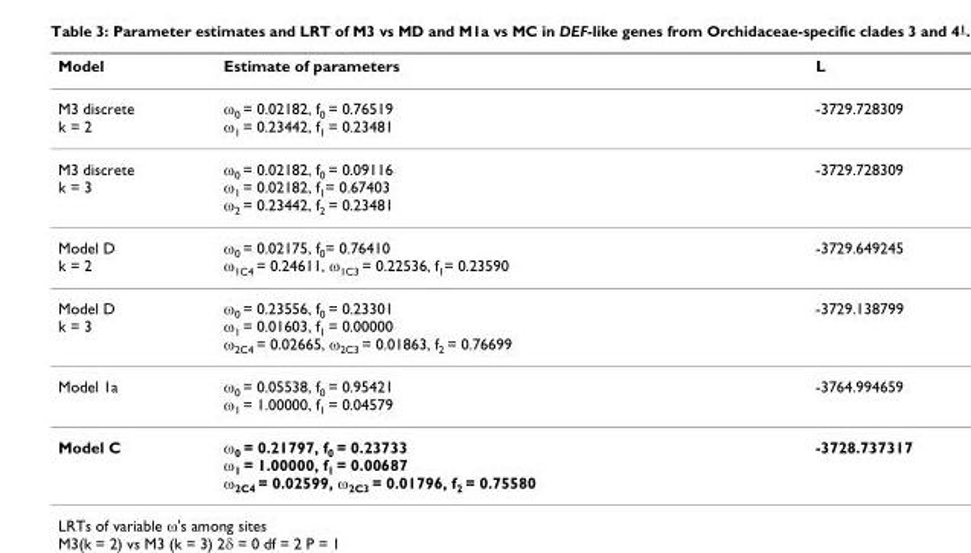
<table><thead><tr><td>Model</td><td>Estimate of parameters</td><td>L</td></tr></thead><tbody><tr><td>M3 discrete k = 2</td><td>ω<sub>0</sub> = 0.02182, f<sub>0</sub> = 0.76519 ω<sub>1</sub> = 0.23442, f<sub>1</sub> = 0.23481</td><td>-3729.728309</td></tr><tr><td>M3 discrete k = 3</td><td>ω<sub>0</sub> = 0.02182, f<sub>0</sub> = 0.09116 ω<sub>1</sub> = 0.02182, f<sub>1</sub>= 0.67403 ω<sub>2</sub> = 0.23442, f<sub>2</sub> = 0.23481</td><td>-3729.728309</td></tr><tr><td>Model D k = 2</td><td>ω<sub>0</sub> = 0.02175, f<sub>0</sub>= 0.76410 ω<sub>1C4</sub> = 0.24611, ω<sub>1C3</sub> = 0.22536, f<sub>1</sub>= 0.23590</td><td>-3729.649245</td></tr><tr><td>Model D k = 3</td><td>ω<sub>0</sub> = 0.23556, f<sub>0</sub> = 0.23301 ω<sub>1</sub> = 0.01603, f<sub>1</sub> = 0.00000 ω<sub>2C4</sub> = 0.02665, ω<sub>2C3</sub> = 0.01863, f<sub>2</sub> = 0.76699</td><td>-3729.138799</td></tr><tr><td>Model 1a</td><td>ω<sub>0</sub> = 0.05538, f<sub>0</sub> = 0.95421 ω<sub>1</sub> = 1.00000, f<sub>1</sub> = 0.04579</td><td>-3764.994659</td></tr><tr><td>Model C</td><td>ω<sub>0</sub> = 0.21797, f<sub>0</sub> = 0.23733 ω<sub>1</sub> = 1.00000, f<sub>1</sub> = 0.00687 ω<sub>2C4</sub> = 0.02599, ω<sub>2C3</sub> = 0.01796, f<sub>2</sub> = 0.75580</td><td>-3728.737317</td></tr></tbody></table>